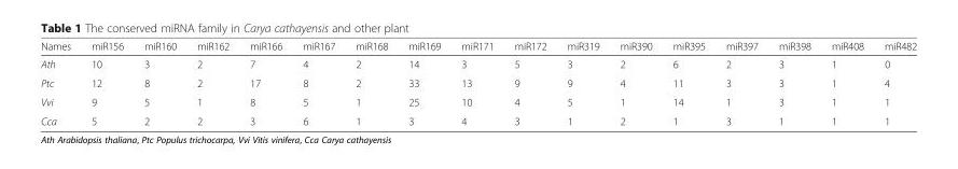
<table><thead><tr><td>Names</td><td>miR156</td><td>miR160</td><td>miR162</td><td>miR166</td><td>miR167</td><td>miR168</td><td>miR169</td><td>miR171</td><td>miR172</td><td>miR319</td><td>miR390</td><td>miR395</td><td>miR397</td><td>miR398</td><td>miR408</td><td>miR482</td></tr></thead><tbody><tr><td>Ath</td><td>10</td><td>3</td><td>2</td><td>7</td><td>4</td><td>2</td><td>14</td><td>3</td><td>5</td><td>3</td><td>2</td><td>6</td><td>2</td><td>3</td><td>1</td><td>0</td></tr><tr><td>Ptc</td><td>12</td><td>8</td><td>2</td><td>17</td><td>8</td><td>2</td><td>33</td><td>13</td><td>9</td><td>9</td><td>4</td><td>11</td><td>3</td><td>3</td><td>1</td><td>4</td></tr><tr><td>Vvi</td><td>9</td><td>5</td><td>1</td><td>8</td><td>5</td><td>1</td><td>25</td><td>10</td><td>4</td><td>5</td><td>1</td><td>14</td><td>1</td><td>3</td><td>1</td><td>1</td></tr><tr><td>Cca</td><td>5</td><td>2</td><td>2</td><td>3</td><td>6</td><td>1</td><td>3</td><td>4</td><td>3</td><td>1</td><td>2</td><td>1</td><td>3</td><td>1</td><td>1</td><td>1</td></tr></tbody></table>